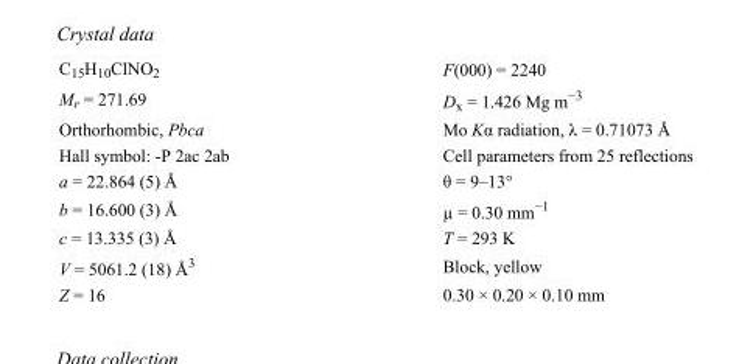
<table><tbody><tr><td>C<sub>15</sub>H<sub>10</sub>ClNO<sub>2</sub></td><td>F(000) = 2240</td></tr><tr><td>M<sub>r</sub> = 271.69</td><td>D<sub>x</sub> = 1.426 Mg m<sup>−3</sup></td></tr><tr><td>Orthorhombic, Pbca</td><td>Mo Kα radiation, λ = 0.71073 Å</td></tr><tr><td>Hall symbol: -P 2ac 2ab</td><td>Cell parameters from 25 reflections</td></tr><tr><td>a = 22.864 (5) Å</td><td>θ = 9–13°</td></tr><tr><td>b = 16.600 (3) Å</td><td>µ = 0.30 mm<sup>−1</sup></td></tr><tr><td>c = 13.335 (3) Å</td><td>T = 293 K</td></tr><tr><td>V = 5061.2 (18) Å<sup>3</sup></td><td>Block, yellow</td></tr><tr><td>Z = 16</td><td>0.30 × 0.20 × 0.10 mm</td></tr></tbody></table>